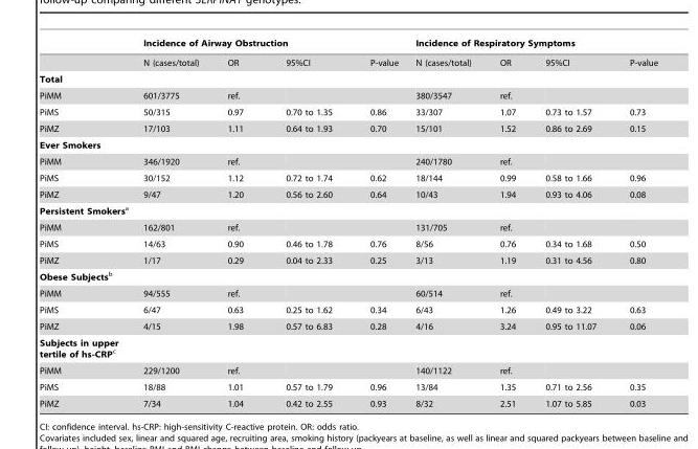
<table><thead><tr><td rowspan="2"></td><td colspan="4">Incidence of Airway Obstruction</td><td colspan="4">Incidence of Respiratory Symptoms</td></tr><tr><td>N (cases/total)</td><td>OR</td><td>95%CI</td><td>P-value</td><td>N (cases/total)</td><td>OR</td><td>95%CI</td><td>P-value</td></tr></thead><tbody><tr><td colspan="9">Total</td></tr><tr><td>PiMM</td><td>601/3775</td><td>ref.</td><td></td><td></td><td>380/3547</td><td>ref.</td><td></td><td></td></tr><tr><td>PiMS</td><td>50/315</td><td>0.97</td><td>0.70 to 1.35</td><td>0.86</td><td>33/307</td><td>1.07</td><td>0.73 to 1.57</td><td>0.73</td></tr><tr><td>PiMZ</td><td>17/103</td><td>1.11</td><td>0.64 to 1.93</td><td>0.70</td><td>15/101</td><td>1.52</td><td>0.86 to 2.69</td><td>0.15</td></tr><tr><td colspan="9">Ever Smokers</td></tr><tr><td>PiMM</td><td>346/1920</td><td>ref.</td><td></td><td></td><td>240/1780</td><td>ref.</td><td></td><td></td></tr><tr><td>PiMS</td><td>30/152</td><td>1.12</td><td>0.72 to 1.74</td><td>0.62</td><td>18/144</td><td>0.99</td><td>0.58 to 1.66</td><td>0.96</td></tr><tr><td>PiMZ</td><td>9/47</td><td>1.20</td><td>0.56 to 2.60</td><td>0.64</td><td>10/43</td><td>1.94</td><td>0.93 to 4.06</td><td>0.08</td></tr><tr><td colspan="9">Persistent Smokersa</td></tr><tr><td>PiMM</td><td>162/801</td><td>ref.</td><td></td><td></td><td>131/705</td><td>ref.</td><td></td><td></td></tr><tr><td>PiMS</td><td>14/63</td><td>0.90</td><td>0.46 to 1.78</td><td>0.76</td><td>8/56</td><td>0.76</td><td>0.34 to 1.68</td><td>0.50</td></tr><tr><td>PiMZ</td><td>1/17</td><td>0.29</td><td>0.04 to 2.33</td><td>0.25</td><td>3/13</td><td>1.19</td><td>0.31 to 4.56</td><td>0.80</td></tr><tr><td colspan="9">Obese Subjectsb</td></tr><tr><td>PiMM</td><td>94/555</td><td>ref.</td><td></td><td></td><td>60/514</td><td>ref.</td><td></td><td></td></tr><tr><td>PiMS</td><td>6/47</td><td>0.63</td><td>0.25 to 1.62</td><td>0.34</td><td>6/43</td><td>1.26</td><td>0.49 to 3.22</td><td>0.63</td></tr><tr><td>PiMZ</td><td>4/15</td><td>1.98</td><td>0.57 to 6.83</td><td>0.28</td><td>4/16</td><td>3.24</td><td>0.95 to 11.07</td><td>0.06</td></tr><tr><td colspan="9">Subjects in upper tertile of hs-CRPc</td></tr><tr><td>PiMM</td><td>229/1200</td><td>ref.</td><td></td><td></td><td>140/1122</td><td>ref.</td><td></td><td></td></tr><tr><td>PiMS</td><td>18/88</td><td>1.01</td><td>0.57 to 1.79</td><td>0.96</td><td>13/84</td><td>1.35</td><td>0.71 to 2.56</td><td>0.35</td></tr><tr><td>PiMZ</td><td>7/34</td><td>1.04</td><td>0.42 to 2.55</td><td>0.93</td><td>8/32</td><td>2.51</td><td>1.07 to 5.85</td><td>0.03</td></tr></tbody></table>